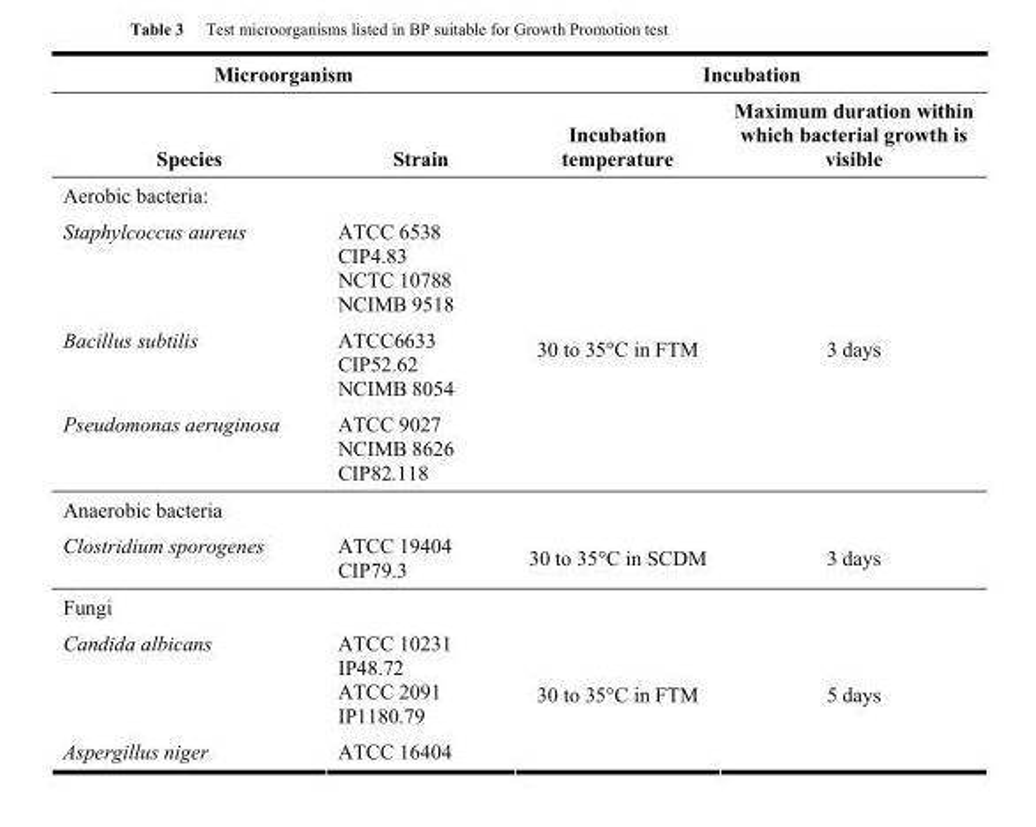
<table><thead><tr><td colspan="2">Microorganism</td><td colspan="2">Incubation</td></tr><tr><td>Species</td><td>Strain</td><td>Incubation temperature</td><td>Maximum duration within which bacterial growth is visible</td></tr></thead><tbody><tr><td colspan="4">Aerobic bacteria:</td></tr><tr><td>Staphylcoccus aureus</td><td>ATCC 6538 CIP4.83 NCTC 10788 NCIMB 9518</td><td rowspan="3">30 to 35°C in FTM</td><td rowspan="3">3 days</td></tr><tr><td>Bacillus subtilis</td><td>ATCC6633 CIP52.62 NCIMB 8054</td></tr><tr><td>Pseudomonas aeruginosa</td><td>ATCC 9027 NCIMB 8626 CIP82.118</td></tr><tr><td colspan="4">Anaerobic bacteria</td></tr><tr><td>Clostridium sporogenes</td><td>ATCC 19404 CIP79.3</td><td>30 to 35°C in SCDM</td><td>3 days</td></tr><tr><td colspan="4">Fungi</td></tr><tr><td>Candida albicans</td><td>ATCC 10231 IP48.72 ATCC 2091 IP1180.79</td><td rowspan="2">30 to 35°C in FTM</td><td rowspan="2">5 days</td></tr><tr><td>Aspergillus niger</td><td>ATCC 16404</td></tr></tbody></table>